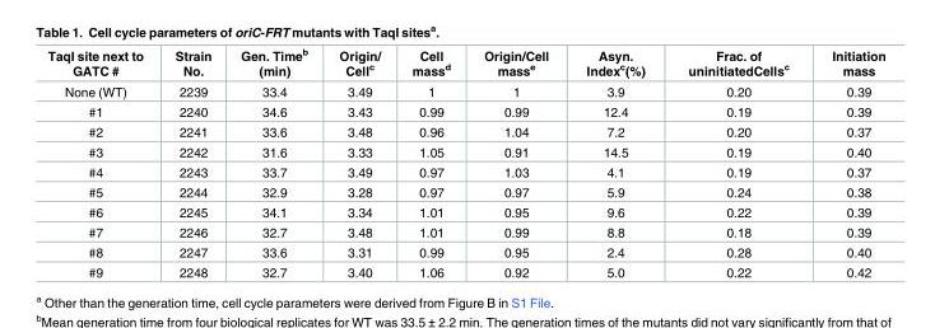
<table><thead><tr><td>TaqI site next to GATC #</td><td>Strain No.</td><td>Gen. Time<sup>b</sup> (min)</td><td>Origin/ Cell<sup>c</sup></td><td>Cell mass<sup>d</sup></td><td>Origin/Cell mass<sup>e</sup></td><td>Asyn. Index<sup>c</sup>(%)</td><td>Frac. of uninitiatedCells<sup>c</sup></td><td>Initiation mass</td></tr></thead><tbody><tr><td>None (WT)</td><td>2239</td><td>33.4</td><td>3.49</td><td>1</td><td>1</td><td>3.9</td><td>0.20</td><td>0.39</td></tr><tr><td>#1</td><td>2240</td><td>34.6</td><td>3.43</td><td>0.99</td><td>0.99</td><td>12.4</td><td>0.19</td><td>0.39</td></tr><tr><td>#2</td><td>2241</td><td>33.6</td><td>3.48</td><td>0.96</td><td>1.04</td><td>7.2</td><td>0.20</td><td>0.37</td></tr><tr><td>#3</td><td>2242</td><td>31.6</td><td>3.33</td><td>1.05</td><td>0.91</td><td>14.5</td><td>0.19</td><td>0.40</td></tr><tr><td>#4</td><td>2243</td><td>33.7</td><td>3.49</td><td>0.97</td><td>1.03</td><td>4.1</td><td>0.19</td><td>0.37</td></tr><tr><td>#5</td><td>2244</td><td>32.9</td><td>3.28</td><td>0.97</td><td>0.97</td><td>5.9</td><td>0.24</td><td>0.38</td></tr><tr><td>#6</td><td>2245</td><td>34.1</td><td>3.34</td><td>1.01</td><td>0.95</td><td>9.6</td><td>0.22</td><td>0.39</td></tr><tr><td>#7</td><td>2246</td><td>32.7</td><td>3.48</td><td>1.01</td><td>0.99</td><td>8.8</td><td>0.18</td><td>0.39</td></tr><tr><td>#8</td><td>2247</td><td>33.6</td><td>3.31</td><td>0.99</td><td>0.95</td><td>2.4</td><td>0.28</td><td>0.40</td></tr><tr><td>#9</td><td>2248</td><td>32.7</td><td>3.40</td><td>1.06</td><td>0.92</td><td>5.0</td><td>0.22</td><td>0.42</td></tr></tbody></table>